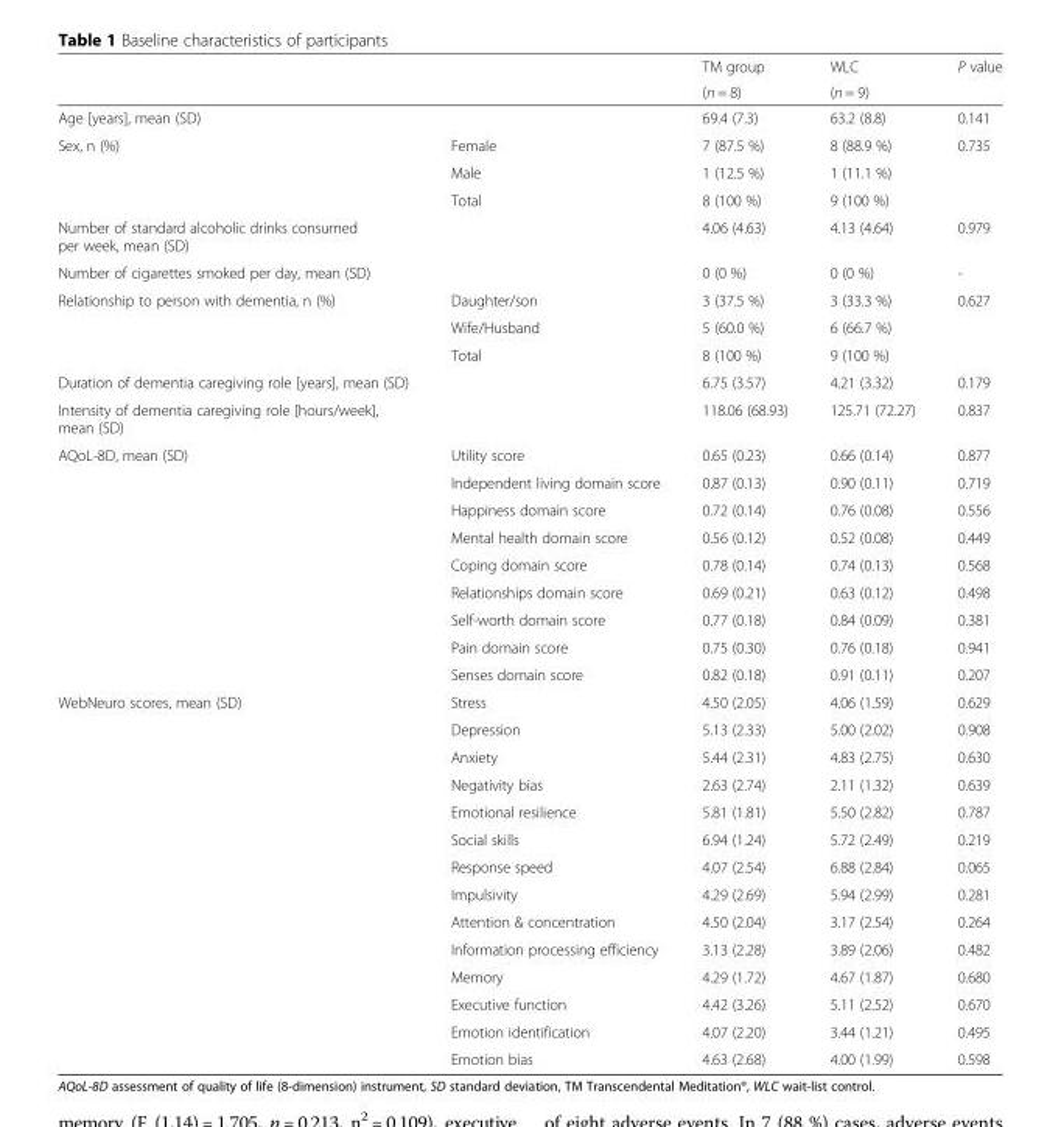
<table><thead><tr><td rowspan="2"></td><td rowspan="2"></td><td rowspan="2">TM group (n = 8)</td><td rowspan="2">WLC (n = 9)</td><td rowspan="2">P value</td></tr><tr></tr></thead><tbody><tr><td>Age [years], mean (SD)</td><td></td><td>69.4 (7.3)</td><td>63.2 (8.8)</td><td>0.141</td></tr><tr><td rowspan="3">Sex, n (%)</td><td>Female</td><td>7 (87.5 %)</td><td>8 (88.9 %)</td><td>0.735</td></tr><tr><td>Male</td><td>1 (12.5 %)</td><td>1 (11.1 %)</td><td></td></tr><tr><td>Total</td><td>8 (100 %)</td><td>9 (100 %)</td><td></td></tr><tr><td>Number of standard alcoholic drinks consumed per week, mean (SD)</td><td></td><td>4.06 (4.63)</td><td>4.13 (4.64)</td><td>0.979</td></tr><tr><td>Number of cigarettes smoked per day, mean (SD)</td><td></td><td>0 (0 %)</td><td>0 (0 %)</td><td>-</td></tr><tr><td rowspan="3">Relationship to person with dementia, n (%)</td><td>Daughter/son</td><td>3 (37.5 %)</td><td>3 (33.3 %)</td><td>0.627</td></tr><tr><td>Wife/Husband</td><td>5 (60.0 %)</td><td>6 (66.7 %)</td><td></td></tr><tr><td>Total</td><td>8 (100 %)</td><td>9 (100 %)</td><td></td></tr><tr><td>Duration of dementia caregiving role [years], mean (SD)</td><td></td><td>6.75 (3.57)</td><td>4.21 (3.32)</td><td>0.179</td></tr><tr><td>Intensity of dementia caregiving role [hours/week], mean (SD)</td><td></td><td>118.06 (68.93)</td><td>125.71 (72.27)</td><td>0.837</td></tr><tr><td rowspan="9">AQoL-8D, mean (SD)</td><td>Utility score</td><td>0.65 (0.23)</td><td>0.66 (0.14)</td><td>0.877</td></tr><tr><td>Independent living domain score</td><td>0.87 (0.13)</td><td>0.90 (0.11)</td><td>0.719</td></tr><tr><td>Happiness domain score</td><td>0.72 (0.14)</td><td>0.76 (0.08)</td><td>0.556</td></tr><tr><td>Mental health domain score</td><td>0.56 (0.12)</td><td>0.52 (0.08)</td><td>0.449</td></tr><tr><td>Coping domain score</td><td>0.78 (0.14)</td><td>0.74 (0.13)</td><td>0.568</td></tr><tr><td>Relationships domain score</td><td>0.69 (0.21)</td><td>0.63 (0.12)</td><td>0.498</td></tr><tr><td>Self-worth domain score</td><td>0.77 (0.18)</td><td>0.84 (0.09)</td><td>0.381</td></tr><tr><td>Pain domain score</td><td>0.75 (0.30)</td><td>0.76 (0.18)</td><td>0.941</td></tr><tr><td>Senses domain score</td><td>0.82 (0.18)</td><td>0.91 (0.11)</td><td>0.207</td></tr><tr><td rowspan="14">WebNeuro scores, mean (SD)</td><td>Stress</td><td>4.50 (2.05)</td><td>4.06 (1.59)</td><td>0.629</td></tr><tr><td>Depression</td><td>5.13 (2.33)</td><td>5.00 (2.02)</td><td>0.908</td></tr><tr><td>Anxiety</td><td>5.44 (2.31)</td><td>4.83 (2.75)</td><td>0.630</td></tr><tr><td>Negativity bias</td><td>2.63 (2.74)</td><td>2.11 (1.32)</td><td>0.639</td></tr><tr><td>Emotional resilience</td><td>5.81 (1.81)</td><td>5.50 (2.82)</td><td>0.787</td></tr><tr><td>Social skills</td><td>6.94 (1.24)</td><td>5.72 (2.49)</td><td>0.219</td></tr><tr><td>Response speed</td><td>4.07 (2.54)</td><td>6.88 (2.84)</td><td>0.065</td></tr><tr><td>Impulsivity</td><td>4.29 (2.69)</td><td>5.94 (2.99)</td><td>0.281</td></tr><tr><td>Attention &amp; concentration</td><td>4.50 (2.04)</td><td>3.17 (2.54)</td><td>0.264</td></tr><tr><td>Information processing efficiency</td><td>3.13 (2.28)</td><td>3.89 (2.06)</td><td>0.482</td></tr><tr><td>Memory</td><td>4.29 (1.72)</td><td>4.67 (1.87)</td><td>0.680</td></tr><tr><td>Executive function</td><td>4.42 (3.26)</td><td>5.11 (2.52)</td><td>0.670</td></tr><tr><td>Emotion identification</td><td>4.07 (2.20)</td><td>3.44 (1.21)</td><td>0.495</td></tr><tr><td>Emotion bias</td><td>4.63 (2.68)</td><td>4.00 (1.99)</td><td>0.598</td></tr></tbody></table>